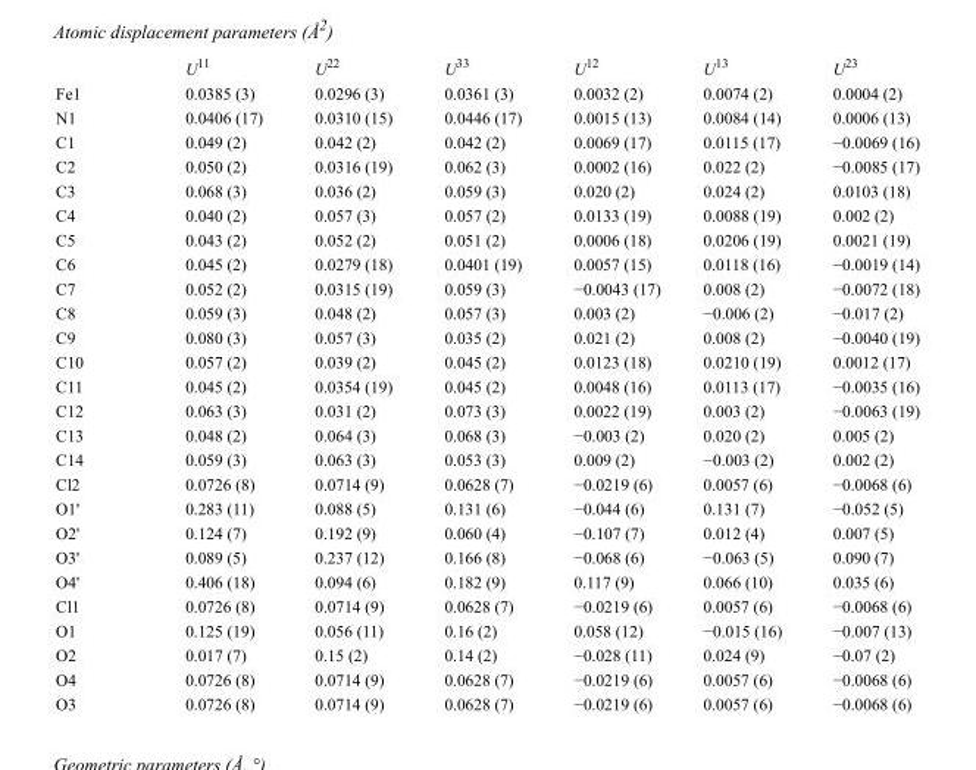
<table><thead><tr><td></td><td>U<sup>11</sup></td><td>U<sup>22</sup></td><td>U<sup>33</sup></td><td>U<sup>12</sup></td><td>U<sup>13</sup></td><td>U<sup>23</sup></td></tr></thead><tbody><tr><td>Fe1</td><td>0.0385 (3)</td><td>0.0296 (3)</td><td>0.0361 (3)</td><td>0.0032 (2)</td><td>0.0074 (2)</td><td>0.0004 (2)</td></tr><tr><td>N1</td><td>0.0406 (17)</td><td>0.0310 (15)</td><td>0.0446 (17)</td><td>0.0015 (13)</td><td>0.0084 (14)</td><td>0.0006 (13)</td></tr><tr><td>C1</td><td>0.049 (2)</td><td>0.042 (2)</td><td>0.042 (2)</td><td>0.0069 (17)</td><td>0.0115 (17)</td><td>−0.0069 (16)</td></tr><tr><td>C2</td><td>0.050 (2)</td><td>0.0316 (19)</td><td>0.062 (3)</td><td>0.0002 (16)</td><td>0.022 (2)</td><td>−0.0085 (17)</td></tr><tr><td>C3</td><td>0.068 (3)</td><td>0.036 (2)</td><td>0.059 (3)</td><td>0.020 (2)</td><td>0.024 (2)</td><td>0.0103 (18)</td></tr><tr><td>C4</td><td>0.040 (2)</td><td>0.057 (3)</td><td>0.057 (2)</td><td>0.0133 (19)</td><td>0.0088 (19)</td><td>0.002 (2)</td></tr><tr><td>C5</td><td>0.043 (2)</td><td>0.052 (2)</td><td>0.051 (2)</td><td>0.0006 (18)</td><td>0.0206 (19)</td><td>0.0021 (19)</td></tr><tr><td>C6</td><td>0.045 (2)</td><td>0.0279 (18)</td><td>0.0401 (19)</td><td>0.0057 (15)</td><td>0.0118 (16)</td><td>−0.0019 (14)</td></tr><tr><td>C7</td><td>0.052 (2)</td><td>0.0315 (19)</td><td>0.059 (3)</td><td>−0.0043 (17)</td><td>0.008 (2)</td><td>−0.0072 (18)</td></tr><tr><td>C8</td><td>0.059 (3)</td><td>0.048 (2)</td><td>0.057 (3)</td><td>0.003 (2)</td><td>−0.006 (2)</td><td>−0.017 (2)</td></tr><tr><td>C9</td><td>0.080 (3)</td><td>0.057 (3)</td><td>0.035 (2)</td><td>0.021 (2)</td><td>0.008 (2)</td><td>−0.0040 (19)</td></tr><tr><td>C10</td><td>0.057 (2)</td><td>0.039 (2)</td><td>0.045 (2)</td><td>0.0123 (18)</td><td>0.0210 (19)</td><td>0.0012 (17)</td></tr><tr><td>C11</td><td>0.045 (2)</td><td>0.0354 (19)</td><td>0.045 (2)</td><td>0.0048 (16)</td><td>0.0113 (17)</td><td>−0.0035 (16)</td></tr><tr><td>C12</td><td>0.063 (3)</td><td>0.031 (2)</td><td>0.073 (3)</td><td>0.0022 (19)</td><td>0.003 (2)</td><td>−0.0063 (19)</td></tr><tr><td>C13</td><td>0.048 (2)</td><td>0.064 (3)</td><td>0.068 (3)</td><td>−0.003 (2)</td><td>0.020 (2)</td><td>0.005 (2)</td></tr><tr><td>C14</td><td>0.059 (3)</td><td>0.063 (3)</td><td>0.053 (3)</td><td>0.009 (2)</td><td>−0.003 (2)</td><td>0.002 (2)</td></tr><tr><td>Cl2</td><td>0.0726 (8)</td><td>0.0714 (9)</td><td>0.0628 (7)</td><td>−0.0219 (6)</td><td>0.0057 (6)</td><td>−0.0068 (6)</td></tr><tr><td>O1&#x27;</td><td>0.283 (11)</td><td>0.088 (5)</td><td>0.131 (6)</td><td>−0.044 (6)</td><td>0.131 (7)</td><td>−0.052 (5)</td></tr><tr><td>O2&#x27;</td><td>0.124 (7)</td><td>0.192 (9)</td><td>0.060 (4)</td><td>−0.107 (7)</td><td>0.012 (4)</td><td>0.007 (5)</td></tr><tr><td>O3&#x27;</td><td>0.089 (5)</td><td>0.237 (12)</td><td>0.166 (8)</td><td>−0.068 (6)</td><td>−0.063 (5)</td><td>0.090 (7)</td></tr><tr><td>O4&#x27;</td><td>0.406 (18)</td><td>0.094 (6)</td><td>0.182 (9)</td><td>0.117 (9)</td><td>0.066 (10)</td><td>0.035 (6)</td></tr><tr><td>Cl1</td><td>0.0726 (8)</td><td>0.0714 (9)</td><td>0.0628 (7)</td><td>−0.0219 (6)</td><td>0.0057 (6)</td><td>−0.0068 (6)</td></tr><tr><td>O1</td><td>0.125 (19)</td><td>0.056 (11)</td><td>0.16 (2)</td><td>0.058 (12)</td><td>−0.015 (16)</td><td>−0.007 (13)</td></tr><tr><td>O2</td><td>0.017 (7)</td><td>0.15 (2)</td><td>0.14 (2)</td><td>−0.028 (11)</td><td>0.024 (9)</td><td>−0.07 (2)</td></tr><tr><td>O4</td><td>0.0726 (8)</td><td>0.0714 (9)</td><td>0.0628 (7)</td><td>−0.0219 (6)</td><td>0.0057 (6)</td><td>−0.0068 (6)</td></tr><tr><td>O3</td><td>0.0726 (8)</td><td>0.0714 (9)</td><td>0.0628 (7)</td><td>−0.0219 (6)</td><td>0.0057 (6)</td><td>−0.0068 (6)</td></tr></tbody></table>